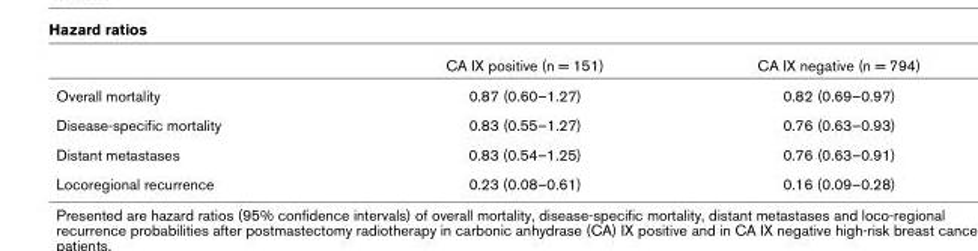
<table><thead><tr><td></td><td>CA IX positive (n = 151)</td><td>CA IX negative (n = 794)</td></tr></thead><tbody><tr><td>Overall mortality</td><td>0.87 (0.60–1.27)</td><td>0.82 (0.69–0.97)</td></tr><tr><td>Disease-specific mortality</td><td>0.83 (0.55–1.27)</td><td>0.76 (0.63–0.93)</td></tr><tr><td>Distant metastases</td><td>0.83 (0.54–1.25)</td><td>0.76 (0.63–0.91)</td></tr><tr><td>Locoregional recurrence</td><td>0.23 (0.08–0.61)</td><td>0.16 (0.09–0.28)</td></tr></tbody></table>